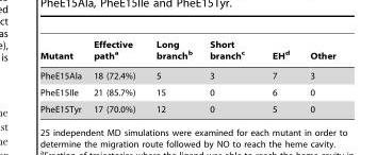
<table><thead><tr><td>Mutant</td><td>Effective path<sup>a</sup></td><td>Long branch<sup>b</sup></td><td>Short branch<sup>c</sup></td><td>EH<sup>d</sup></td><td>Other</td></tr></thead><tbody><tr><td>PheE15Ala</td><td>18 (72.4%)</td><td>5</td><td>3</td><td>7</td><td>3</td></tr><tr><td>PheE15Ile</td><td>21 (85.7%)</td><td>15</td><td>0</td><td>6</td><td>0</td></tr><tr><td>PheE15Tyr</td><td>17 (70.0%)</td><td>12</td><td>0</td><td>5</td><td>0</td></tr></tbody></table>